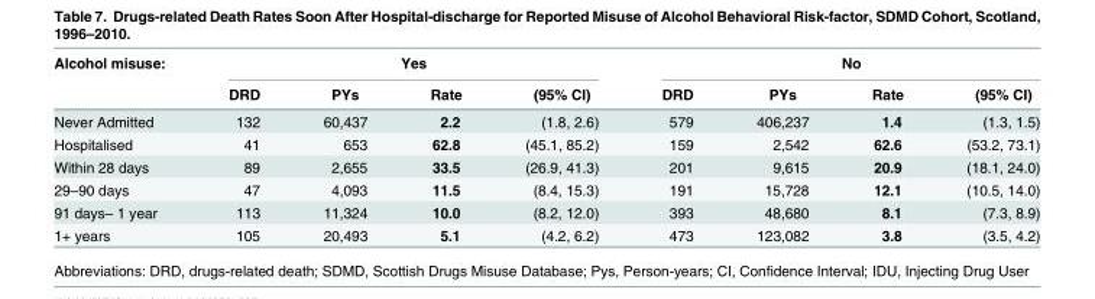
<table><thead><tr><td rowspan="2">Alcohol misuse:</td><td colspan="4">Yes</td><td colspan="4">No</td></tr><tr><td>DRD</td><td>PYs</td><td>Rate</td><td>(95% CI)</td><td>DRD</td><td>PYs</td><td>Rate</td><td>(95% CI)</td></tr></thead><tbody><tr><td>Never Admitted</td><td>132</td><td>60,437</td><td>2.2</td><td>(1.8, 2.6)</td><td>579</td><td>406,237</td><td>1.4</td><td>(1.3, 1.5)</td></tr><tr><td>Hospitalised</td><td>41</td><td>653</td><td>62.8</td><td>(45.1, 85.2)</td><td>159</td><td>2,542</td><td>62.6</td><td>(53.2, 73.1)</td></tr><tr><td>Within 28 days</td><td>89</td><td>2,655</td><td>33.5</td><td>(26.9, 41.3)</td><td>201</td><td>9,615</td><td>20.9</td><td>(18.1, 24.0)</td></tr><tr><td>29–90 days</td><td>47</td><td>4,093</td><td>11.5</td><td>(8.4, 15.3)</td><td>191</td><td>15,728</td><td>12.1</td><td>(10.5, 14.0)</td></tr><tr><td>91 days– 1 year</td><td>113</td><td>11,324</td><td>10.0</td><td>(8.2, 12.0)</td><td>393</td><td>48,680</td><td>8.1</td><td>(7.3, 8.9)</td></tr><tr><td>1+ years</td><td>105</td><td>20,493</td><td>5.1</td><td>(4.2, 6.2)</td><td>473</td><td>123,082</td><td>3.8</td><td>(3.5, 4.2)</td></tr></tbody></table>